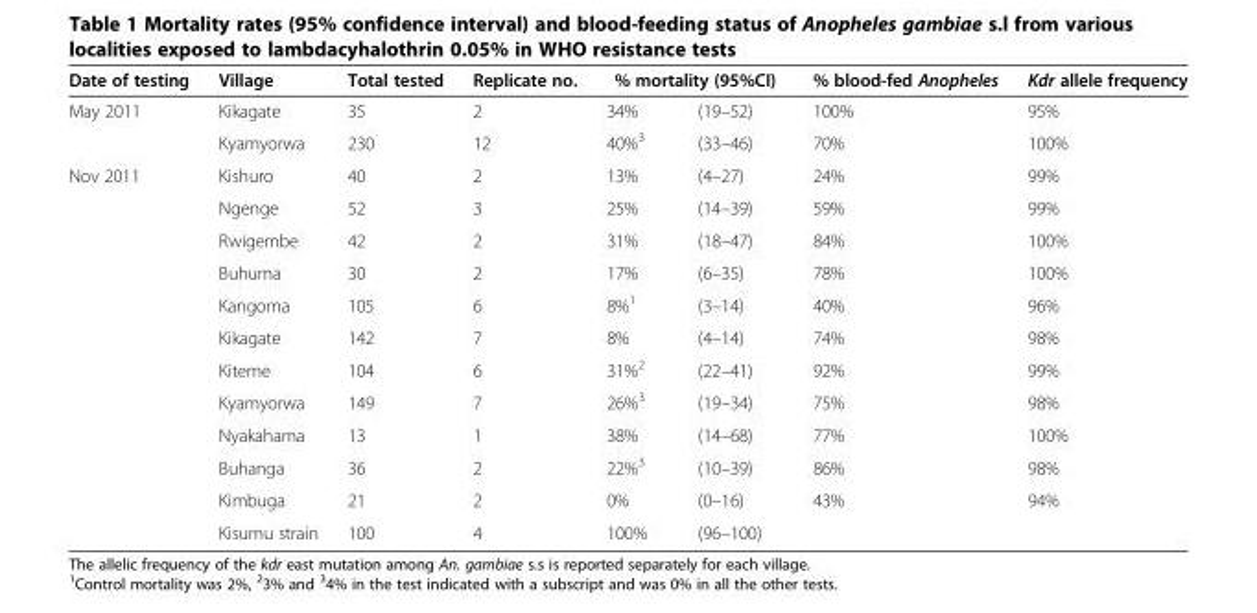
<table><thead><tr><td rowspan="2">Date of testing May 2011</td><td rowspan="2">Village Kikagate</td><td rowspan="2">Total tested 35</td><td rowspan="2">Replicate no. 2</td><td colspan="2">% mortality (95%CI)</td><td rowspan="2">% blood-fed Anopheles 100%</td><td rowspan="2">Kdr allele frequency 95%</td></tr><tr><td>34%</td><td>(19–52)</td></tr></thead><tbody><tr><td></td><td>Kyamyorwa</td><td>230</td><td>12</td><td>40%<sup>3</sup></td><td>(33–46)</td><td>70%</td><td>100%</td></tr><tr><td rowspan="12">Nov 2011</td><td>Kishuro</td><td>40</td><td>2</td><td>13%</td><td>(4–27)</td><td>24%</td><td>99%</td></tr><tr><td>Ngenge</td><td>52</td><td>3</td><td>25%</td><td>(14–39)</td><td>59%</td><td>99%</td></tr><tr><td>Rwigembe</td><td>42</td><td>2</td><td>31%</td><td>(18–47)</td><td>84%</td><td>100%</td></tr><tr><td>Buhuma</td><td>30</td><td>2</td><td>17%</td><td>(6–35)</td><td>78%</td><td>100%</td></tr><tr><td>Kangoma</td><td>105</td><td>6</td><td>8%<sup>1</sup></td><td>(3–14)</td><td>40%</td><td>96%</td></tr><tr><td>Kikagate</td><td>142</td><td>7</td><td>8%</td><td>(4–14)</td><td>74%</td><td>98%</td></tr><tr><td>Kiteme</td><td>104</td><td>6</td><td>31%<sup>2</sup></td><td>(22–41)</td><td>92%</td><td>99%</td></tr><tr><td>Kyamyorwa</td><td>149</td><td>7</td><td>26%<sup>3</sup></td><td>(19–34)</td><td>75%</td><td>98%</td></tr><tr><td>Nyakahama</td><td>13</td><td>1</td><td>38%</td><td>(14–68)</td><td>77%</td><td>100%</td></tr><tr><td>Buhanga</td><td>36</td><td>2</td><td>22%<sup>3</sup></td><td>(10–39)</td><td>86%</td><td>98%</td></tr><tr><td>Kimbuga</td><td>21</td><td>2</td><td>0%</td><td>(0–16)</td><td>43%</td><td>94%</td></tr><tr><td>Kisumu strain</td><td>100</td><td>4</td><td>100%</td><td>(96–100)</td><td></td><td></td></tr></tbody></table>